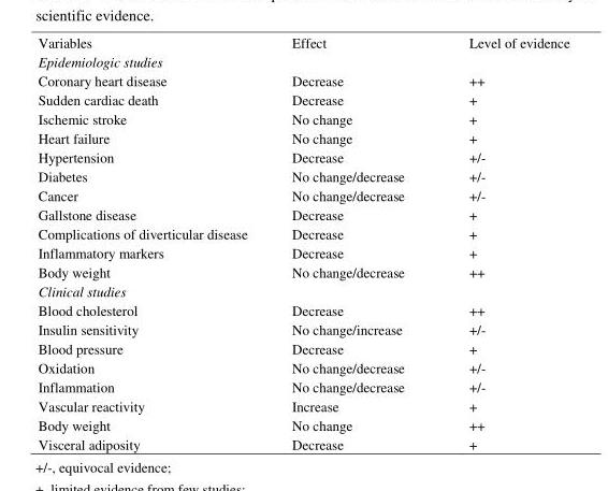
<table><thead><tr><td>Variables</td><td>Effect</td><td>Level of evidence</td></tr></thead><tbody><tr><td colspan="3">Epidemiologic studies</td></tr><tr><td>Coronary heart disease</td><td>Decrease</td><td>++</td></tr><tr><td>Sudden cardiac death</td><td>Decrease</td><td>+</td></tr><tr><td>Ischemic stroke</td><td>No change</td><td>+</td></tr><tr><td>Heart failure</td><td>No change</td><td>+</td></tr><tr><td>Hypertension</td><td>Decrease</td><td>+/-</td></tr><tr><td>Diabetes</td><td>No change/decrease</td><td>+/-</td></tr><tr><td>Cancer</td><td>No change/decrease</td><td>+/-</td></tr><tr><td>Gallstone disease</td><td>Decrease</td><td>+</td></tr><tr><td>Complications of diverticular disease</td><td>Decrease</td><td>+</td></tr><tr><td>Inflammatory markers</td><td>Decrease</td><td>+</td></tr><tr><td>Body weight</td><td>No change/decrease</td><td>++</td></tr><tr><td colspan="3">Clinical studies</td></tr><tr><td>Blood cholesterol</td><td>Decrease</td><td>++</td></tr><tr><td>Insulin sensitivity</td><td>No change/increase</td><td>+/-</td></tr><tr><td>Blood pressure</td><td>Decrease</td><td>+</td></tr><tr><td>Oxidation</td><td>No change/decrease</td><td>+/-</td></tr><tr><td>Inflammation</td><td>No change/decrease</td><td>+/-</td></tr><tr><td>Vascular reactivity</td><td>Increase</td><td>+</td></tr><tr><td>Body weight</td><td>No change</td><td>++</td></tr><tr><td>Visceral adiposity</td><td>Decrease</td><td>+</td></tr></tbody></table>